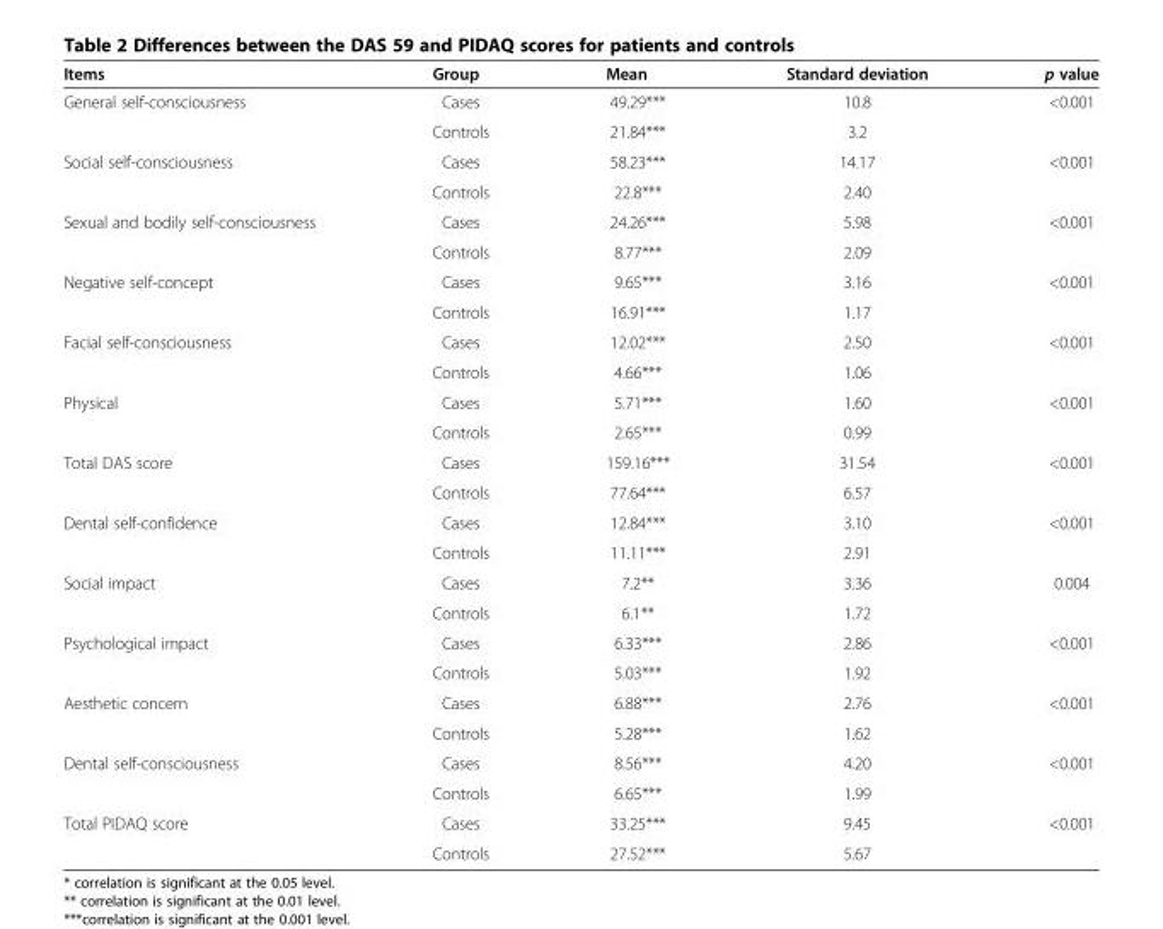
<table><thead><tr><td>Items</td><td>Group</td><td>Mean</td><td>Standard deviation</td><td>p value</td></tr></thead><tbody><tr><td rowspan="2">General self-consciousness</td><td>Cases</td><td>49.29***</td><td>10.8</td><td rowspan="2">&lt;0.001</td></tr><tr><td>Controls</td><td>21.84***</td><td>3.2</td></tr><tr><td rowspan="2">Social self-consciousness</td><td>Cases</td><td>58.23***</td><td>14.17</td><td rowspan="2">&lt;0.001</td></tr><tr><td>Controls</td><td>22.8***</td><td>2.40</td></tr><tr><td rowspan="2">Sexual and bodily self-consciousness</td><td>Cases</td><td>24.26***</td><td>5.98</td><td rowspan="2">&lt;0.001</td></tr><tr><td>Controls</td><td>8.77***</td><td>2.09</td></tr><tr><td rowspan="2">Negative self-concept</td><td>Cases</td><td>9.65***</td><td>3.16</td><td rowspan="2">&lt;0.001</td></tr><tr><td>Controls</td><td>16.91***</td><td>1.17</td></tr><tr><td rowspan="2">Facial self-consciousness</td><td>Cases</td><td>12.02***</td><td>2.50</td><td rowspan="2">&lt;0.001</td></tr><tr><td>Controls</td><td>4.66***</td><td>1.06</td></tr><tr><td rowspan="2">Physical</td><td>Cases</td><td>5.71***</td><td>1.60</td><td rowspan="2">&lt;0.001</td></tr><tr><td>Controls</td><td>2.65***</td><td>0.99</td></tr><tr><td rowspan="2">Total DAS score</td><td>Cases</td><td>159.16***</td><td>31.54</td><td rowspan="2">&lt;0.001</td></tr><tr><td>Controls</td><td>77.64***</td><td>6.57</td></tr><tr><td rowspan="2">Dental self-confidence</td><td>Cases</td><td>12.84***</td><td>3.10</td><td rowspan="2">&lt;0.001</td></tr><tr><td>Controls</td><td>11.11***</td><td>2.91</td></tr><tr><td rowspan="2">Social impact</td><td>Cases</td><td>7.2**</td><td>3.36</td><td rowspan="2">0.004</td></tr><tr><td>Controls</td><td>6.1**</td><td>1.72</td></tr><tr><td rowspan="2">Psychological impact</td><td>Cases</td><td>6.33***</td><td>2.86</td><td rowspan="2">&lt;0.001</td></tr><tr><td>Controls</td><td>5.03***</td><td>1.92</td></tr><tr><td rowspan="2">Aesthetic concern</td><td>Cases</td><td>6.88***</td><td>2.76</td><td rowspan="2">&lt;0.001</td></tr><tr><td>Controls</td><td>5.28***</td><td>1.62</td></tr><tr><td rowspan="2">Dental self-consciousness</td><td>Cases</td><td>8.56***</td><td>4.20</td><td rowspan="2">&lt;0.001</td></tr><tr><td>Controls</td><td>6.65***</td><td>1.99</td></tr><tr><td rowspan="2">Total PIDAQ score</td><td>Cases</td><td>33.25***</td><td>9.45</td><td rowspan="2">&lt;0.001</td></tr><tr><td>Controls</td><td>27.52***</td><td>5.67</td></tr></tbody></table>